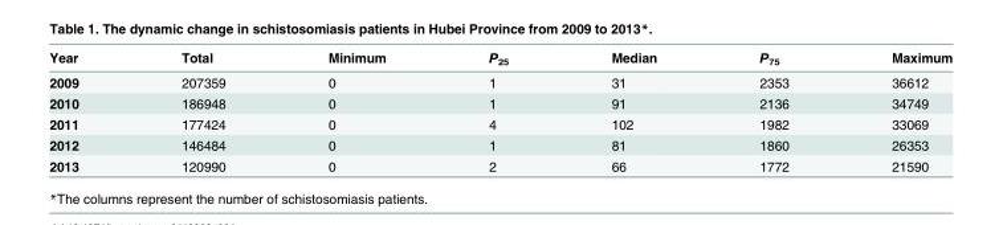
<table><thead><tr><td>Year</td><td>Total</td><td>Minimum</td><td>P<sub>25</sub></td><td>Median</td><td>P<sub>75</sub></td><td>Maximum</td></tr></thead><tbody><tr><td>2009</td><td>207359</td><td>0</td><td>1</td><td>31</td><td>2353</td><td>36612</td></tr><tr><td>2010</td><td>186948</td><td>0</td><td>1</td><td>91</td><td>2136</td><td>34749</td></tr><tr><td>2011</td><td>177424</td><td>0</td><td>4</td><td>102</td><td>1982</td><td>33069</td></tr><tr><td>2012</td><td>146484</td><td>0</td><td>1</td><td>81</td><td>1860</td><td>26353</td></tr><tr><td>2013</td><td>120990</td><td>0</td><td>2</td><td>66</td><td>1772</td><td>21590</td></tr></tbody></table>